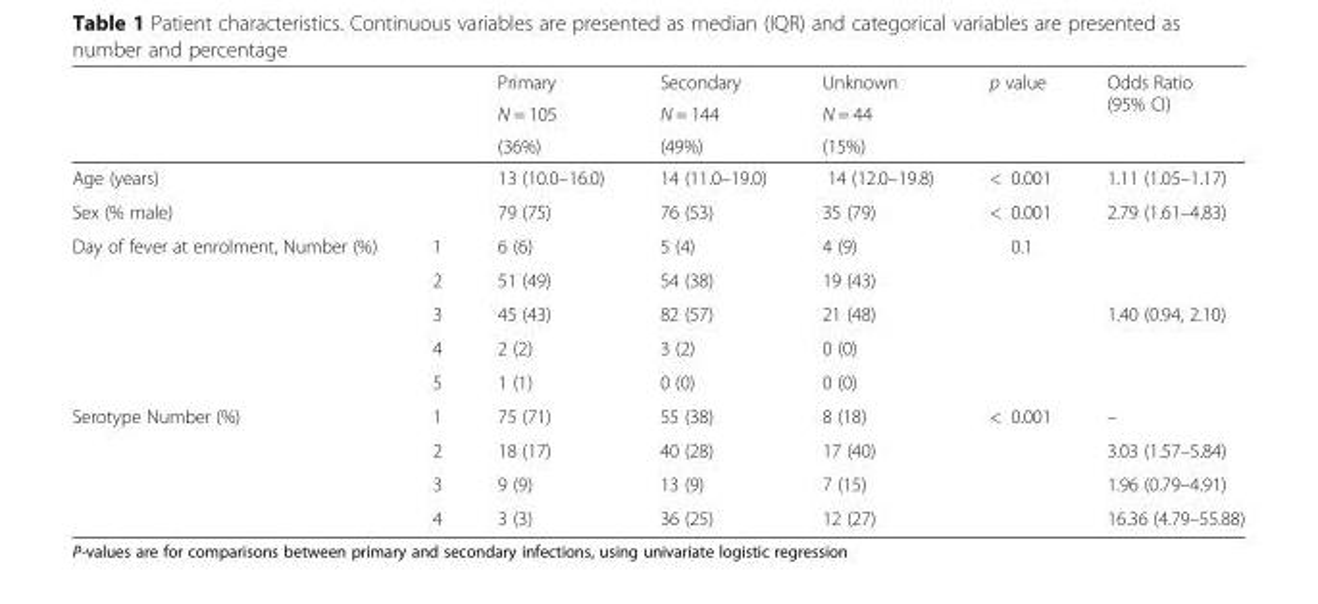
<table><thead><tr><td rowspan="3"></td><td rowspan="3"></td><td rowspan="3">Primary N = 105 (36%)</td><td rowspan="3">Secondary N = 144 (49%)</td><td rowspan="3">Unknown N = 44 (15%)</td><td rowspan="3">p value</td><td rowspan="3">Odds Ratio (95% CI)</td></tr><tr></tr><tr></tr></thead><tbody><tr><td colspan="2">Age (years)</td><td>13 (10.0–16.0)</td><td>14 (11.0–19.0)</td><td>14 (12.0–19.8)</td><td>&lt; 0.001</td><td>1.11 (1.05–1.17)</td></tr><tr><td colspan="2">Sex (% male)</td><td>79 (75)</td><td>76 (53)</td><td>35 (79)</td><td>&lt; 0.001</td><td>2.79 (1.61–4.83)</td></tr><tr><td rowspan="5">Day of fever at enrolment, Number (%)</td><td>1</td><td>6 (6)</td><td>5 (4)</td><td>4 (9)</td><td>0.1</td><td></td></tr><tr><td>2</td><td>51 (49)</td><td>54 (38)</td><td>19 (43)</td><td></td><td></td></tr><tr><td>3</td><td>45 (43)</td><td>82 (57)</td><td>21 (48)</td><td></td><td>1.40 (0.94, 2.10)</td></tr><tr><td>4</td><td>2 (2)</td><td>3 (2)</td><td>0 (0)</td><td></td><td></td></tr><tr><td>5</td><td>1 (1)</td><td>0 (0)</td><td>0 (0)</td><td></td><td></td></tr><tr><td rowspan="4">Serotype Number (%)</td><td>1</td><td>75 (71)</td><td>55 (38)</td><td>8 (18)</td><td>&lt; 0.001</td><td>–</td></tr><tr><td>2</td><td>18 (17)</td><td>40 (28)</td><td>17 (40)</td><td></td><td>3.03 (1.57–5.84)</td></tr><tr><td>3</td><td>9 (9)</td><td>13 (9)</td><td>7 (15)</td><td></td><td>1.96 (0.79–4.91)</td></tr><tr><td>4</td><td>3 (3)</td><td>36 (25)</td><td>12 (27)</td><td></td><td>16.36 (4.79–55.88)</td></tr></tbody></table>